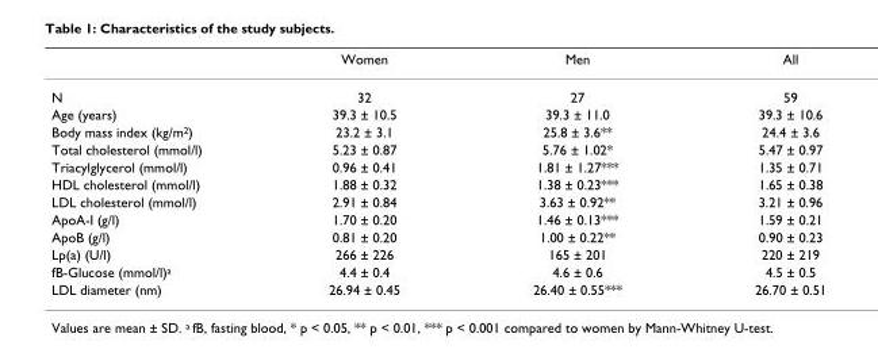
<table><thead><tr><td></td><td>Women</td><td>Men</td><td>All</td></tr></thead><tbody><tr><td>N</td><td>32</td><td>27</td><td>59</td></tr><tr><td>Age (years)</td><td>39.3 ± 10.5</td><td>39.3 ± 11.0</td><td>39.3 ± 10.6</td></tr><tr><td>Body mass index (kg/m<sup>2</sup>)</td><td>23.2 ± 3.1</td><td>25.8 ± 3.6**</td><td>24.4 ± 3.6</td></tr><tr><td>Total cholesterol (mmol/l)</td><td>5.23 ± 0.87</td><td>5.76 ± 1.02*</td><td>5.47 ± 0.97</td></tr><tr><td>Triacylglycerol (mmol/l)</td><td>0.96 ± 0.41</td><td>1.81 ± 1.27***</td><td>1.35 ± 0.71</td></tr><tr><td>HDL cholesterol (mmol/l)</td><td>1.88 ± 0.32</td><td>1.38 ± 0.23***</td><td>1.65 ± 0.38</td></tr><tr><td>LDL cholesterol (mmol/l)</td><td>2.91 ± 0.84</td><td>3.63 ± 0.92**</td><td>3.21 ± 0.96</td></tr><tr><td>ApoA-I (g/l)</td><td>1.70 ± 0.20</td><td>1.46 ± 0.13***</td><td>1.59 ± 0.21</td></tr><tr><td>ApoB (g/l)</td><td>0.81 ± 0.20</td><td>1.00 ± 0.22**</td><td>0.90 ± 0.23</td></tr><tr><td>Lp(a) (U/l)</td><td>266 ± 226</td><td>165 ± 201</td><td>220 ± 219</td></tr><tr><td>fB-Glucose (mmol/l)<sup>a</sup></td><td>4.4 ± 0.4</td><td>4.6 ± 0.6</td><td>4.5 ± 0.5</td></tr><tr><td>LDL diameter (nm)</td><td>26.94 ± 0.45</td><td>26.40 ± 0.55***</td><td>26.70 ± 0.51</td></tr></tbody></table>